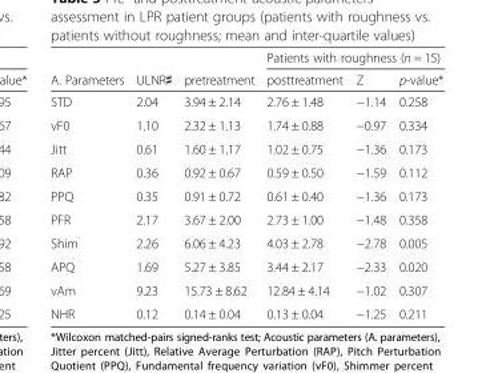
<table><thead><tr><td rowspan="2">A. Parameters</td><td rowspan="2">ULNR♯</td><td rowspan="2">pretreatment</td><td colspan="3">Patients with roughness (n = 15)</td></tr><tr><td>posttreatment</td><td>Z</td><td>p-value*</td></tr></thead><tbody><tr><td>STD</td><td>2.04</td><td>3.94 ± 2.14</td><td>2.76 ± 1.48</td><td>−1.14</td><td>0.258</td></tr><tr><td>vF0</td><td>1.10</td><td>2.32 ± 1.13</td><td>1.74 ± 0.88</td><td>−0.97</td><td>0.334</td></tr><tr><td>Jitt</td><td>0.61</td><td>1.60 ± 1.17</td><td>1.02 ± 0.75</td><td>−1.36</td><td>0.173</td></tr><tr><td>RAP</td><td>0.36</td><td>0.92 ± 0.67</td><td>0.59 ± 0.50</td><td>−1.59</td><td>0.112</td></tr><tr><td>PPQ</td><td>0.35</td><td>0.91 ± 0.72</td><td>0.61 ± 0.40</td><td>−1.36</td><td>0.173</td></tr><tr><td>PFR</td><td>2.17</td><td>3.67 ± 2.00</td><td>2.73 ± 1.00</td><td>−1.48</td><td>0.358</td></tr><tr><td>Shim</td><td>2.26</td><td>6.06 ± 4.23</td><td>4.03 ± 2.78</td><td>−2.78</td><td>0.005</td></tr><tr><td>APQ</td><td>1.69</td><td>5.27 ± 3.85</td><td>3.44 ± 2.17</td><td>−2.33</td><td>0.020</td></tr><tr><td>vAm</td><td>9.23</td><td>15.73 ± 8.62</td><td>12.84 ± 4.14</td><td>−1.02</td><td>0.307</td></tr><tr><td>NHR</td><td>0.12</td><td>0.14 ± 0.04</td><td>0.13 ± 0.04</td><td>−1.25</td><td>0.211</td></tr></tbody></table>